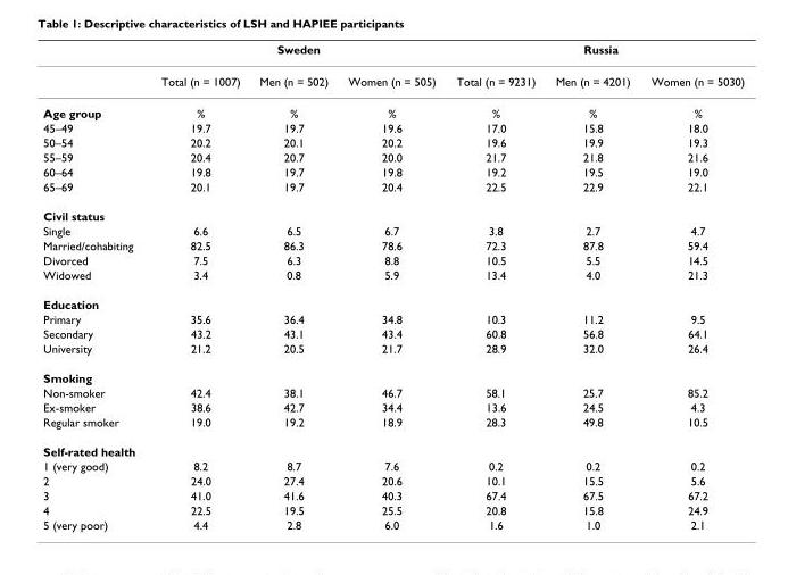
<table><thead><tr><td rowspan="2"></td><td colspan="3">Sweden</td><td colspan="3">Russia</td></tr><tr><td>Total (n = 1007)</td><td>Men (n = 502)</td><td>Women (n = 505)</td><td>Total (n = 9231)</td><td>Men (n = 4201)</td><td>Women (n = 5030)</td></tr></thead><tbody><tr><td>Age group</td><td>%</td><td>%</td><td>%</td><td>%</td><td>%</td><td>%</td></tr><tr><td>45–49</td><td>19.7</td><td>19.7</td><td>19.6</td><td>17.0</td><td>15.8</td><td>18.0</td></tr><tr><td>50–54</td><td>20.2</td><td>20.1</td><td>20.2</td><td>19.6</td><td>19.9</td><td>19.3</td></tr><tr><td>55–59</td><td>20.4</td><td>20.7</td><td>20.0</td><td>21.7</td><td>21.8</td><td>21.6</td></tr><tr><td>60–64</td><td>19.8</td><td>19.7</td><td>19.8</td><td>19.2</td><td>19.5</td><td>19.0</td></tr><tr><td>65–69</td><td>20.1</td><td>19.7</td><td>20.4</td><td>22.5</td><td>22.9</td><td>22.1</td></tr><tr><td colspan="7">Civil status</td></tr><tr><td>Single</td><td>6.6</td><td>6.5</td><td>6.7</td><td>3.8</td><td>2.7</td><td>4.7</td></tr><tr><td>Married/cohabiting</td><td>82.5</td><td>86.3</td><td>78.6</td><td>72.3</td><td>87.8</td><td>59.4</td></tr><tr><td>Divorced</td><td>7.5</td><td>6.3</td><td>8.8</td><td>10.5</td><td>5.5</td><td>14.5</td></tr><tr><td>Widowed</td><td>3.4</td><td>0.8</td><td>5.9</td><td>13.4</td><td>4.0</td><td>21.3</td></tr><tr><td colspan="7">Education</td></tr><tr><td>Primary</td><td>35.6</td><td>36.4</td><td>34.8</td><td>10.3</td><td>11.2</td><td>9.5</td></tr><tr><td>Secondary</td><td>43.2</td><td>43.1</td><td>43.4</td><td>60.8</td><td>56.8</td><td>64.1</td></tr><tr><td>University</td><td>21.2</td><td>20.5</td><td>21.7</td><td>28.9</td><td>32.0</td><td>26.4</td></tr><tr><td colspan="7">Smoking</td></tr><tr><td>Non-smoker</td><td>42.4</td><td>38.1</td><td>46.7</td><td>58.1</td><td>25.7</td><td>85.2</td></tr><tr><td>Ex-smoker</td><td>38.6</td><td>42.7</td><td>34.4</td><td>13.6</td><td>24.5</td><td>4.3</td></tr><tr><td>Regular smoker</td><td>19.0</td><td>19.2</td><td>18.9</td><td>28.3</td><td>49.8</td><td>10.5</td></tr><tr><td colspan="7">Self-rated health</td></tr><tr><td>1 (very good)</td><td>8.2</td><td>8.7</td><td>7.6</td><td>0.2</td><td>0.2</td><td>0.2</td></tr><tr><td>2</td><td>24.0</td><td>27.4</td><td>20.6</td><td>10.1</td><td>15.5</td><td>5.6</td></tr><tr><td>3</td><td>41.0</td><td>41.6</td><td>40.3</td><td>67.4</td><td>67.5</td><td>67.2</td></tr><tr><td>4</td><td>22.5</td><td>19.5</td><td>25.5</td><td>20.8</td><td>15.8</td><td>24.9</td></tr><tr><td>5 (very poor)</td><td>4.4</td><td>2.8</td><td>6.0</td><td>1.6</td><td>1.0</td><td>2.1</td></tr></tbody></table>